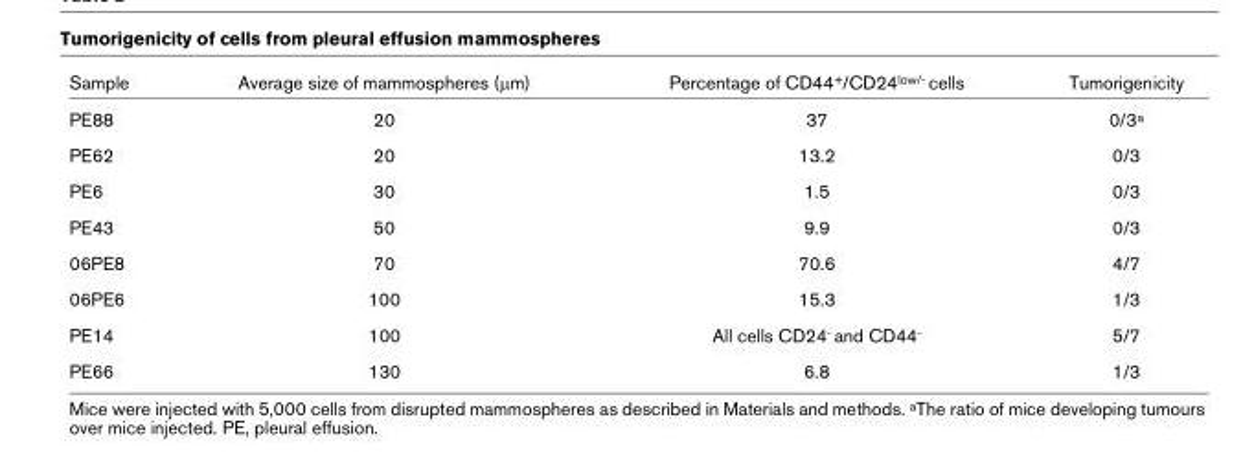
<table><thead><tr><td>Sample</td><td>Average size of mammospheres (μm)</td><td>Percentage of CD44<sup>+</sup>/CD24<sup>low/-</sup> cells</td><td>Tumorigenicity</td></tr></thead><tbody><tr><td>PE88</td><td>20</td><td>37</td><td>0/3<sup>a</sup></td></tr><tr><td>PE62</td><td>20</td><td>13.2</td><td>0/3</td></tr><tr><td>PE6</td><td>30</td><td>1.5</td><td>0/3</td></tr><tr><td>PE43</td><td>50</td><td>9.9</td><td>0/3</td></tr><tr><td>06PE8</td><td>70</td><td>70.6</td><td>4/7</td></tr><tr><td>06PE6</td><td>100</td><td>15.3</td><td>1/3</td></tr><tr><td>PE14</td><td>100</td><td>All cells CD24<sup>-</sup> and CD44<sup>-</sup></td><td>5/7</td></tr><tr><td>PE66</td><td>130</td><td>6.8</td><td>1/3</td></tr></tbody></table>